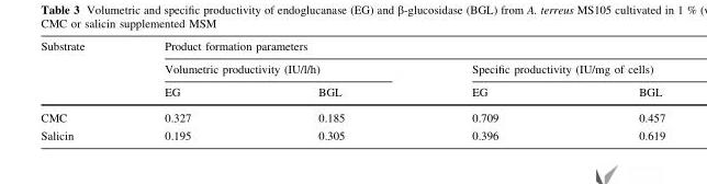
<table><thead><tr><td rowspan="3">Substrate</td><td colspan="4">Product formation parameters</td></tr><tr><td colspan="2">Volumetric productivity (IU/l/h)</td><td colspan="2">Specific productivity (IU/mg of cells)</td></tr><tr><td>EG</td><td>BGL</td><td>EG</td><td>BGL</td></tr></thead><tbody><tr><td>CMC</td><td>0.327</td><td>0.185</td><td>0.709</td><td>0.457</td></tr><tr><td>Salicin</td><td>0.195</td><td>0.305</td><td>0.396</td><td>0.619</td></tr></tbody></table>